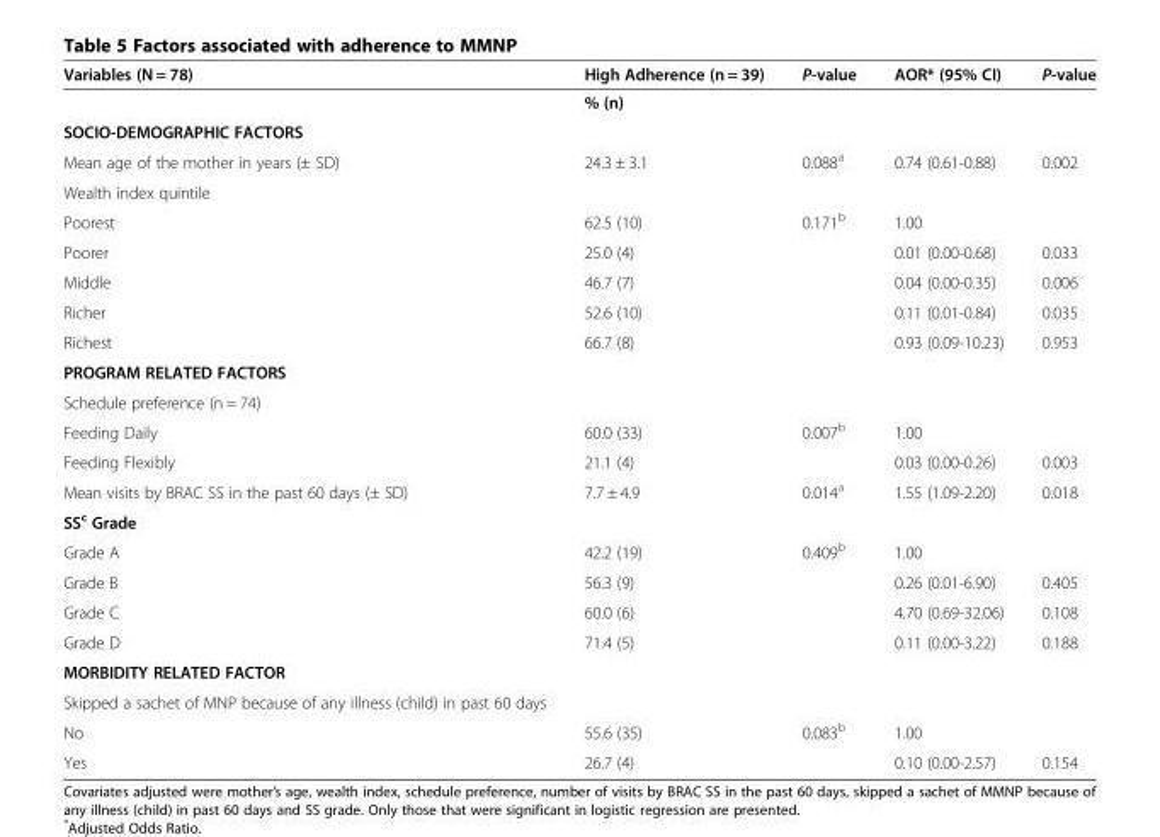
<table><thead><tr><td>Variables (N = 78)</td><td>High Adherence (n = 39)</td><td>P-value</td><td>AOR* (95% CI)</td><td>P-value</td></tr></thead><tbody><tr><td></td><td>% (n)</td><td></td><td></td><td></td></tr><tr><td colspan="5">SOCIO-DEMOGRAPHIC FACTORS</td></tr><tr><td>Mean age of the mother in years (± SD)</td><td>24.3 ± 3.1</td><td>0.088<sup>a</sup></td><td>0.74 (0.61-0.88)</td><td>0.002</td></tr><tr><td colspan="5">Wealth index quintile</td></tr><tr><td>Poorest</td><td>62.5 (10)</td><td>0.171<sup>b</sup></td><td>1.00</td><td></td></tr><tr><td>Poorer</td><td>25.0 (4)</td><td></td><td>0.01 (0.00-0.68)</td><td>0.033</td></tr><tr><td>Middle</td><td>46.7 (7)</td><td></td><td>0.04 (0.00-0.35)</td><td>0.006</td></tr><tr><td>Richer</td><td>52.6 (10)</td><td></td><td>0.11 (0.01-0.84)</td><td>0.035</td></tr><tr><td>Richest</td><td>66.7 (8)</td><td></td><td>0.93 (0.09-10.23)</td><td>0.953</td></tr><tr><td colspan="5">PROGRAM RELATED FACTORS</td></tr><tr><td colspan="5">Schedule preference (n = 74)</td></tr><tr><td>Feeding Daily</td><td>60.0 (33)</td><td>0.007<sup>b</sup></td><td>1.00</td><td></td></tr><tr><td>Feeding Flexibly</td><td>21.1 (4)</td><td></td><td>0.03 (0.00-0.26)</td><td>0.003</td></tr><tr><td>Mean visits by BRAC SS in the past 60 days (± SD)</td><td>7.7 ± 4.9</td><td>0.014<sup>a</sup></td><td>1.55 (1.09-2.20)</td><td>0.018</td></tr><tr><td colspan="5">SS<sup>c</sup> Grade</td></tr><tr><td>Grade A</td><td>42.2 (19)</td><td>0.409<sup>b</sup></td><td>1.00</td><td></td></tr><tr><td>Grade B</td><td>56.3 (9)</td><td></td><td>0.26 (0.01-6.90)</td><td>0.405</td></tr><tr><td>Grade C</td><td>60.0 (6)</td><td></td><td>4.70 (0.69-32.06)</td><td>0.108</td></tr><tr><td>Grade D</td><td>71.4 (5)</td><td></td><td>0.11 (0.00-3.22)</td><td>0.188</td></tr><tr><td colspan="5">MORBIDITY RELATED FACTOR</td></tr><tr><td colspan="5">Skipped a sachet of MNP because of any illness (child) in past 60 days</td></tr><tr><td>No</td><td>55.6 (35)</td><td>0.083<sup>b</sup></td><td>1.00</td><td></td></tr><tr><td>Yes</td><td>26.7 (4)</td><td></td><td>0.10 (0.00-2.57)</td><td>0.154</td></tr></tbody></table>